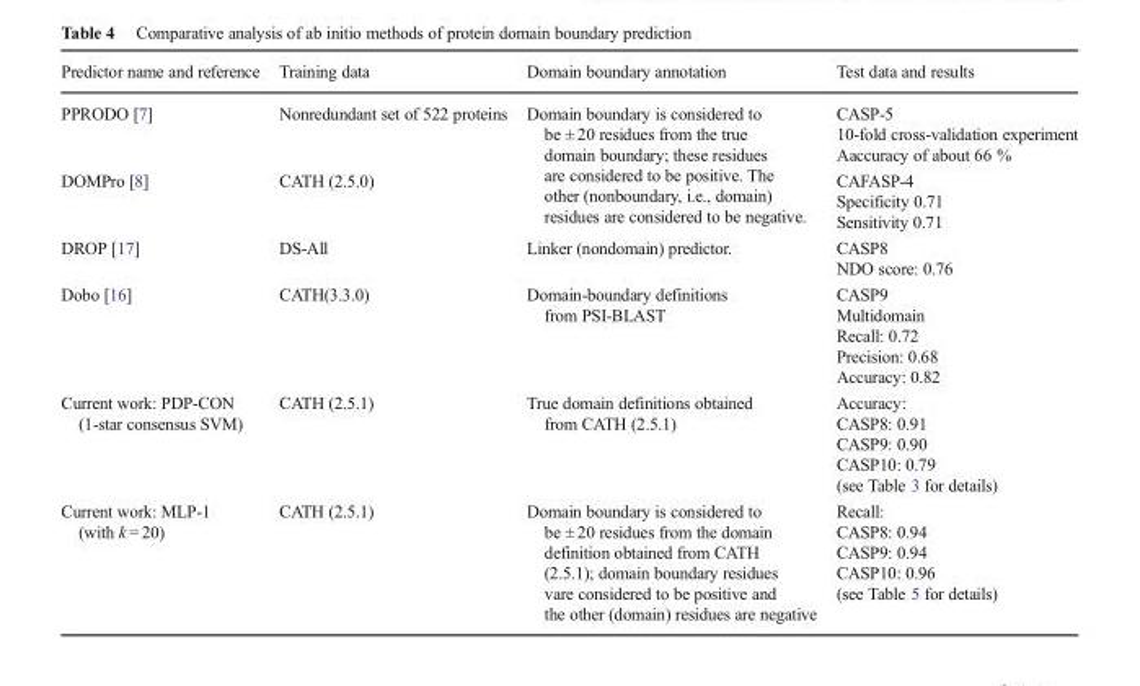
<table><thead><tr><td>Predictor name and reference</td><td>Training data</td><td>Domain boundary annotation</td><td>Test data and results</td></tr></thead><tbody><tr><td>PPRODO [7]</td><td>Nonredundant set of 522 proteins</td><td rowspan="2">Domain boundary is considered to be ± 20 residues from the true domain boundary; these residues are considered to be positive. The other (nonboundary, i.e., domain) residues are considered to be negative.</td><td>CASP-5 10-fold cross-validation experiment Aaccuracy of about 66 %</td></tr><tr><td>DOMPro [8]</td><td>CATH (2.5.0)</td><td>CAFASP-4 Specificity 0.71 Sensitivity 0.71</td></tr><tr><td>DROP [17]</td><td>DS-All</td><td>Linker (nondomain) predictor.</td><td>CASP8 NDO score: 0.76</td></tr><tr><td>Dobo [16]</td><td>CATH(3.3.0)</td><td>Domain-boundary definitions from PSI-BLAST</td><td>CASP9 Multidomain Recall: 0.72 Precision: 0.68 Accuracy: 0.82</td></tr><tr><td>Current work: PDP-CON (1-star consensus SVM)</td><td>CATH (2.5.1)</td><td>True domain definitions obtained from CATH (2.5.1)</td><td>Accuracy: CASP8: 0.91 CASP9: 0.90 CASP10: 0.79 (see Table 3 for details)</td></tr><tr><td>Current work: MLP-1 (with k = 20)</td><td>CATH (2.5.1)</td><td>Domain boundary is considered to be ± 20 residues from the domain definition obtained from CATH (2.5.1); domain boundary residues vare considered to be positive and the other (domain) residues are negative</td><td>Recall: CASP8: 0.94 CASP9: 0.94 CASP10: 0.96 (see Table 5 for details)</td></tr></tbody></table>